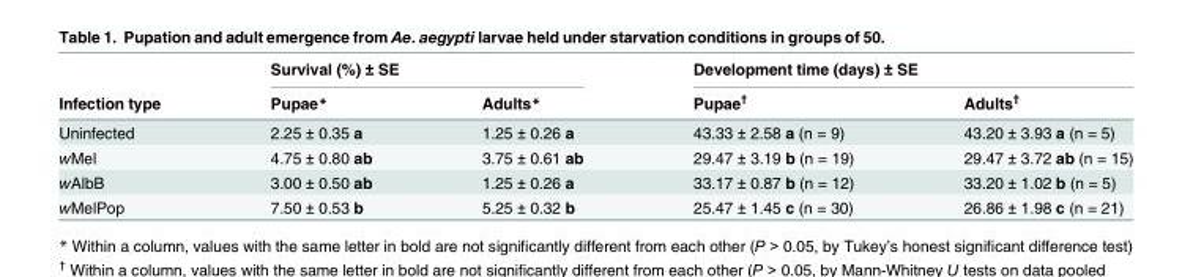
<table><thead><tr><td rowspan="2">Infection type</td><td colspan="2">Survival (%) ± SE</td><td colspan="2">Development time (days) ± SE</td></tr><tr><td>Pupae*</td><td>Adults*</td><td>Pupae<sup>†</sup></td><td>Adults<sup>†</sup></td></tr></thead><tbody><tr><td>Uninfected</td><td>2.25 ± 0.35 a</td><td>1.25 ± 0.26 a</td><td>43.33 ± 2.58 a (n = 9)</td><td>43.20 ± 3.93 a (n = 5)</td></tr><tr><td>wMel</td><td>4.75 ± 0.80 ab</td><td>3.75 ± 0.61 ab</td><td>29.47 ± 3.19 b (n = 19)</td><td>29.47 ± 3.72 ab (n = 15)</td></tr><tr><td>wAlbB</td><td>3.00 ± 0.50 ab</td><td>1.25 ± 0.26 a</td><td>33.17 ± 0.87 b (n = 12)</td><td>33.20 ± 1.02 b (n = 5)</td></tr><tr><td>wMelPop</td><td>7.50 ± 0.53 b</td><td>5.25 ± 0.32 b</td><td>25.47 ± 1.45 c (n = 30)</td><td>26.86 ± 1.98 c (n = 21)</td></tr></tbody></table>